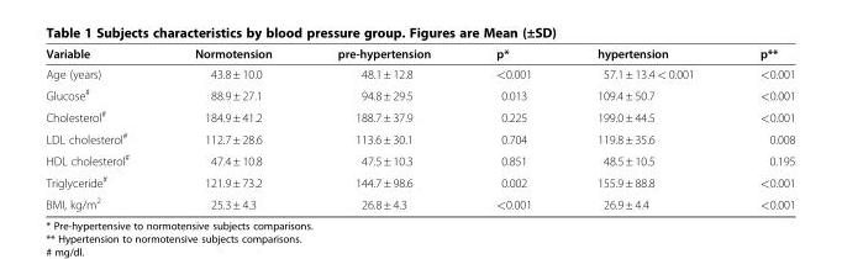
<table><thead><tr><td>Variable</td><td>Normotension</td><td>pre-hypertension</td><td>p*</td><td>hypertension</td><td>p**</td></tr></thead><tbody><tr><td>Age (years)</td><td>43.8 ± 10.0</td><td>48.1 ± 12.8</td><td>&lt;0.001</td><td>57.1 ± 13.4 &lt; 0.001</td><td>&lt;0.001</td></tr><tr><td>Glucose<sup>#</sup></td><td>88.9 ± 27.1</td><td>94.8 ± 29.5</td><td>0.013</td><td>109.4 ± 50.7</td><td>&lt;0.001</td></tr><tr><td>Cholesterol<sup>#</sup></td><td>184.9 ± 41.2</td><td>188.7 ± 37.9</td><td>0.225</td><td>199.0 ± 44.5</td><td>&lt;0.001</td></tr><tr><td>LDL cholesterol<sup>#</sup></td><td>112.7 ± 28.6</td><td>113.6 ± 30.1</td><td>0.704</td><td>119.8 ± 35.6</td><td>0.008</td></tr><tr><td>HDL cholesterol<sup>#</sup></td><td>47.4 ± 10.8</td><td>47.5 ± 10.3</td><td>0.851</td><td>48.5 ± 10.5</td><td>0.195</td></tr><tr><td>Triglyceride<sup>#</sup></td><td>121.9 ± 73.2</td><td>144.7 ± 98.6</td><td>0.002</td><td>155.9 ± 88.8</td><td>&lt;0.001</td></tr><tr><td>BMI, kg/m<sup>2</sup></td><td>25.3 ± 4.3</td><td>26.8 ± 4.3</td><td>&lt;0.001</td><td>26.9 ± 4.4</td><td>&lt;0.001</td></tr></tbody></table>